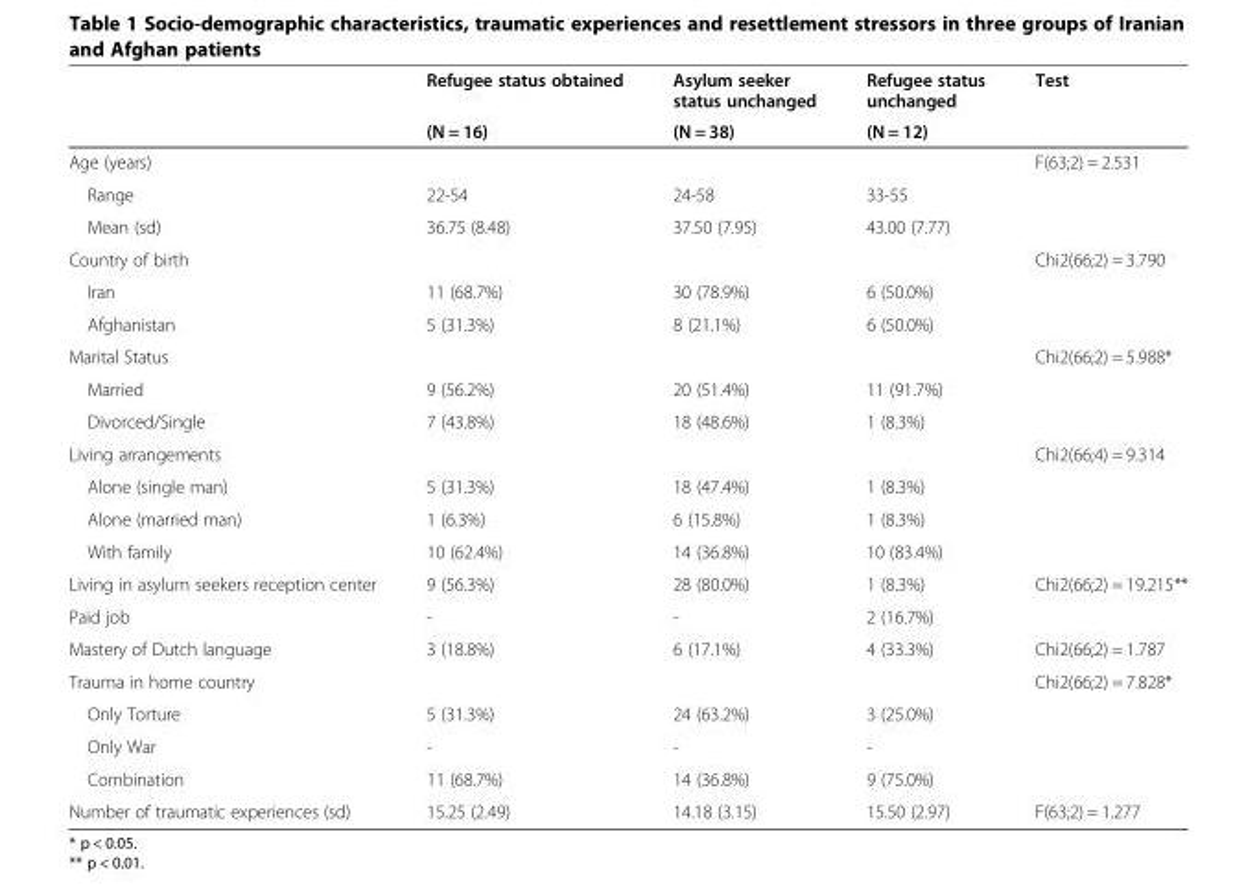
<table><thead><tr><td rowspan="2"></td><td rowspan="2">Refugee status obtained (N = 16)</td><td rowspan="2">Asylum seeker status unchanged (N = 38)</td><td rowspan="2">Refugee status unchanged (N = 12)</td><td rowspan="2">Test</td></tr><tr></tr></thead><tbody><tr><td>Age (years)</td><td></td><td></td><td></td><td>F(63;2) = 2.531</td></tr><tr><td>Range</td><td>22-54</td><td>24-58</td><td>33-55</td><td></td></tr><tr><td>Mean (sd)</td><td>36.75 (8.48)</td><td>37.50 (7.95)</td><td>43.00 (7.77)</td><td></td></tr><tr><td>Country of birth</td><td></td><td></td><td></td><td>Chi2(66;2) = 3.790</td></tr><tr><td>Iran</td><td>11 (68.7%)</td><td>30 (78.9%)</td><td>6 (50.0%)</td><td></td></tr><tr><td>Afghanistan</td><td>5 (31.3%)</td><td>8 (21.1%)</td><td>6 (50.0%)</td><td></td></tr><tr><td>Marital Status</td><td></td><td></td><td></td><td>Chi2(66;2) = 5.988*</td></tr><tr><td>Married</td><td>9 (56.2%)</td><td>20 (51.4%)</td><td>11 (91.7%)</td><td></td></tr><tr><td>Divorced/Single</td><td>7 (43.8%)</td><td>18 (48.6%)</td><td>1 (8.3%)</td><td></td></tr><tr><td>Living arrangements</td><td></td><td></td><td></td><td>Chi2(66;4) = 9.314</td></tr><tr><td>Alone (single man)</td><td>5 (31.3%)</td><td>18 (47.4%)</td><td>1 (8.3%)</td><td></td></tr><tr><td>Alone (married man)</td><td>1 (6.3%)</td><td>6 (15.8%)</td><td>1 (8.3%)</td><td></td></tr><tr><td>With family</td><td>10 (62.4%)</td><td>14 (36.8%)</td><td>10 (83.4%)</td><td></td></tr><tr><td>Living in asylum seekers reception center</td><td>9 (56.3%)</td><td>28 (80.0%)</td><td>1 (8.3%)</td><td>Chi2(66;2) = 19.215**</td></tr><tr><td>Paid job</td><td>-</td><td>-</td><td>2 (16.7%)</td><td></td></tr><tr><td>Mastery of Dutch language</td><td>3 (18.8%)</td><td>6 (17.1%)</td><td>4 (33.3%)</td><td>Chi2(66;2) = 1.787</td></tr><tr><td>Trauma in home country</td><td></td><td></td><td></td><td>Chi2(66;2) = 7.828*</td></tr><tr><td>Only Torture</td><td>5 (31.3%)</td><td>24 (63.2%)</td><td>3 (25.0%)</td><td></td></tr><tr><td>Only War</td><td>-</td><td>-</td><td>-</td><td></td></tr><tr><td>Combination</td><td>11 (68.7%)</td><td>14 (36.8%)</td><td>9 (75.0%)</td><td></td></tr><tr><td>Number of traumatic experiences (sd)</td><td>15.25 (2.49)</td><td>14.18 (3.15)</td><td>15.50 (2.97)</td><td>F(63;2) = 1.277</td></tr></tbody></table>